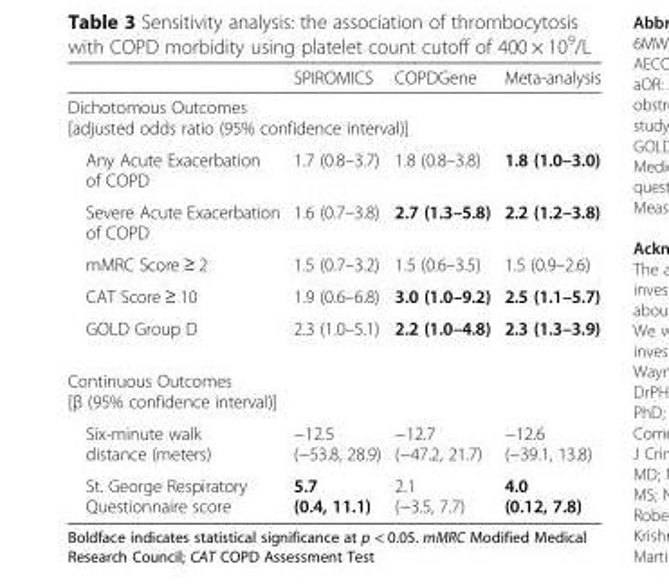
<table><thead><tr><td></td><td>SPIROMICS</td><td>COPDGene</td><td>Meta-analysis</td></tr></thead><tbody><tr><td colspan="4">Dichotomous Outcomes [adjusted odds ratio (95% confidence interval)]</td></tr><tr><td>Any Acute Exacerbation of COPD</td><td>1.7 (0.8–3.7)</td><td>1.8 (0.8–3.8)</td><td>1.8 (1.0–3.0)</td></tr><tr><td>Severe Acute Exacerbation of COPD</td><td>1.6 (0.7–3.8)</td><td>2.7 (1.3–5.8)</td><td>2.2 (1.2–3.8)</td></tr><tr><td>mMRC Score ≥ 2</td><td>1.5 (0.7–3.2)</td><td>1.5 (0.6–3.5)</td><td>1.5 (0.9–2.6)</td></tr><tr><td>CAT Score ≥ 10</td><td>1.9 (0.6–6.8)</td><td>3.0 (1.0–9.2)</td><td>2.5 (1.1–5.7)</td></tr><tr><td>GOLD Group D</td><td>2.3 (1.0–5.1)</td><td>2.2 (1.0–4.8)</td><td>2.3 (1.3–3.9)</td></tr><tr><td colspan="4">Continuous Outcomes [β (95% confidence interval)]</td></tr><tr><td>Six-minute walk distance (meters)</td><td>−12.5 (−53.8, 28.9)</td><td>−12.7 (−47.2, 21.7)</td><td>−12.6 (−39.1, 13.8)</td></tr><tr><td>St. George Respiratory Questionnaire score</td><td>5.7 (0.4, 11.1)</td><td>2.1 (−3.5, 7.7)</td><td>4.0 (0.12, 7.8)</td></tr></tbody></table>